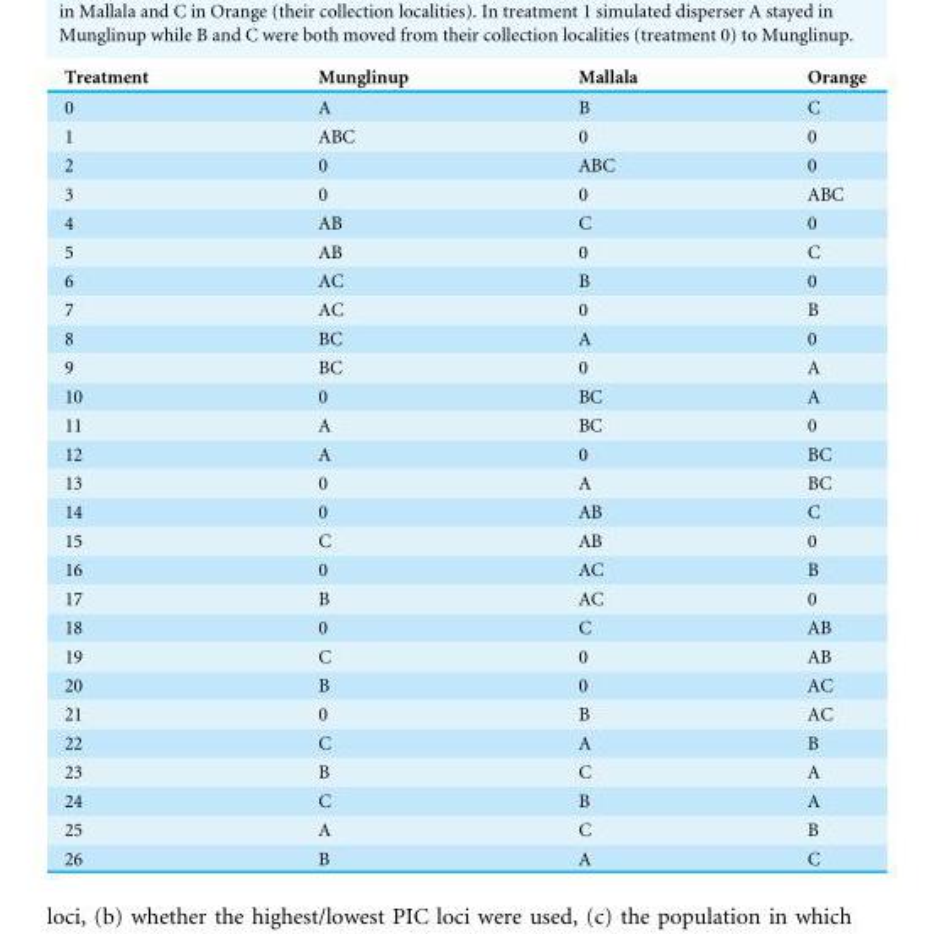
<table><thead><tr><td>Treatment</td><td>Munglinup</td><td>Mallala</td><td>Orange</td></tr></thead><tbody><tr><td>0</td><td>A</td><td>B</td><td>C</td></tr><tr><td>1</td><td>ABC</td><td>0</td><td>0</td></tr><tr><td>2</td><td>0</td><td>ABC</td><td>0</td></tr><tr><td>3</td><td>0</td><td>0</td><td>ABC</td></tr><tr><td>4</td><td>AB</td><td>C</td><td>0</td></tr><tr><td>5</td><td>AB</td><td>0</td><td>C</td></tr><tr><td>6</td><td>AC</td><td>B</td><td>0</td></tr><tr><td>7</td><td>AC</td><td>0</td><td>B</td></tr><tr><td>8</td><td>BC</td><td>A</td><td>0</td></tr><tr><td>9</td><td>BC</td><td>0</td><td>A</td></tr><tr><td>10</td><td>0</td><td>BC</td><td>A</td></tr><tr><td>11</td><td>A</td><td>BC</td><td>0</td></tr><tr><td>12</td><td>A</td><td>0</td><td>BC</td></tr><tr><td>13</td><td>0</td><td>A</td><td>BC</td></tr><tr><td>14</td><td>0</td><td>AB</td><td>C</td></tr><tr><td>15</td><td>C</td><td>AB</td><td>0</td></tr><tr><td>16</td><td>0</td><td>AC</td><td>B</td></tr><tr><td>17</td><td>B</td><td>AC</td><td>0</td></tr><tr><td>18</td><td>0</td><td>C</td><td>AB</td></tr><tr><td>19</td><td>C</td><td>0</td><td>AB</td></tr><tr><td>20</td><td>B</td><td>0</td><td>AC</td></tr><tr><td>21</td><td>0</td><td>B</td><td>AC</td></tr><tr><td>22</td><td>C</td><td>A</td><td>B</td></tr><tr><td>23</td><td>B</td><td>C</td><td>A</td></tr><tr><td>24</td><td>C</td><td>B</td><td>A</td></tr><tr><td>25</td><td>A</td><td>C</td><td>B</td></tr><tr><td>26</td><td>B</td><td>A</td><td>C</td></tr></tbody></table>